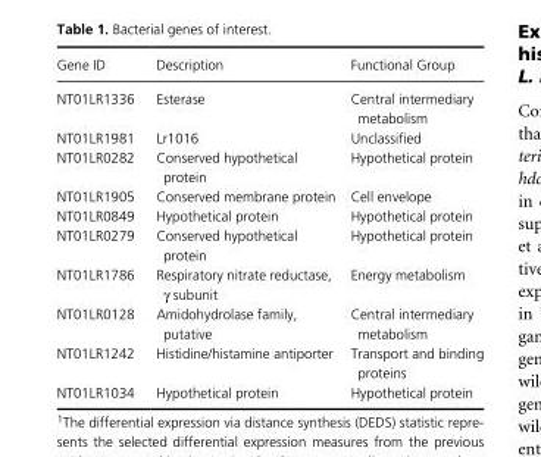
<table><thead><tr><td>Gene ID</td><td>Description</td><td>Functional Group</td></tr></thead><tbody><tr><td>NT01LR1336</td><td>Esterase</td><td>Central intermediary metabolism</td></tr><tr><td>NT01LR1981</td><td>Lr1016</td><td>Unclassified</td></tr><tr><td>NT01LR0282</td><td>Conserved hypothetical protein</td><td>Hypothetical protein</td></tr><tr><td>NT01LR1905</td><td>Conserved membrane protein</td><td>Cell envelope</td></tr><tr><td>NT01LR0849</td><td>Hypothetical protein</td><td>Hypothetical protein</td></tr><tr><td>NT01LR0279</td><td>Conserved hypothetical protein</td><td>Hypothetical protein</td></tr><tr><td>NT01LR1786</td><td>Respiratory nitrate reductase, γ subunit</td><td>Energy metabolism</td></tr><tr><td>NT01LR0128</td><td>Amidohydrolase family, putative</td><td>Central intermediary metabolism</td></tr><tr><td>NT01LR1242</td><td>Histidine/histamine antiporter</td><td>Transport and binding proteins</td></tr><tr><td>NT01LR1034</td><td>Hypothetical protein</td><td>Hypothetical protein</td></tr></tbody></table>